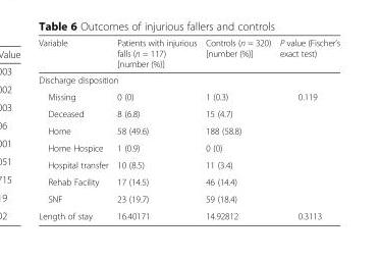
<table><thead><tr><td>Variable</td><td>Patients with injurious falls (n = 117) [number (%)]</td><td>Controls (n = 320) [number (%)]</td><td>P value (Fischer’s exact test)</td></tr></thead><tbody><tr><td colspan="4">Discharge disposition</td></tr><tr><td>Missing</td><td>0 (0)</td><td>1 (0.3)</td><td rowspan="7">0.119</td></tr><tr><td>Deceased</td><td>8 (6.8)</td><td>15 (4.7)</td></tr><tr><td>Home</td><td>58 (49.6)</td><td>188 (58.8)</td></tr><tr><td>Home Hospice</td><td>1 (0.9)</td><td>0 (0)</td></tr><tr><td>Hospital transfer</td><td>10 (8.5)</td><td>11 (3.4)</td></tr><tr><td>Rehab Facility</td><td>17 (14.5)</td><td>46 (14.4)</td></tr><tr><td>SNF</td><td>23 (19.7)</td><td>59 (18.4)</td></tr><tr><td>Length of stay</td><td>16.40171</td><td>14.92812</td><td>0.3113</td></tr></tbody></table>